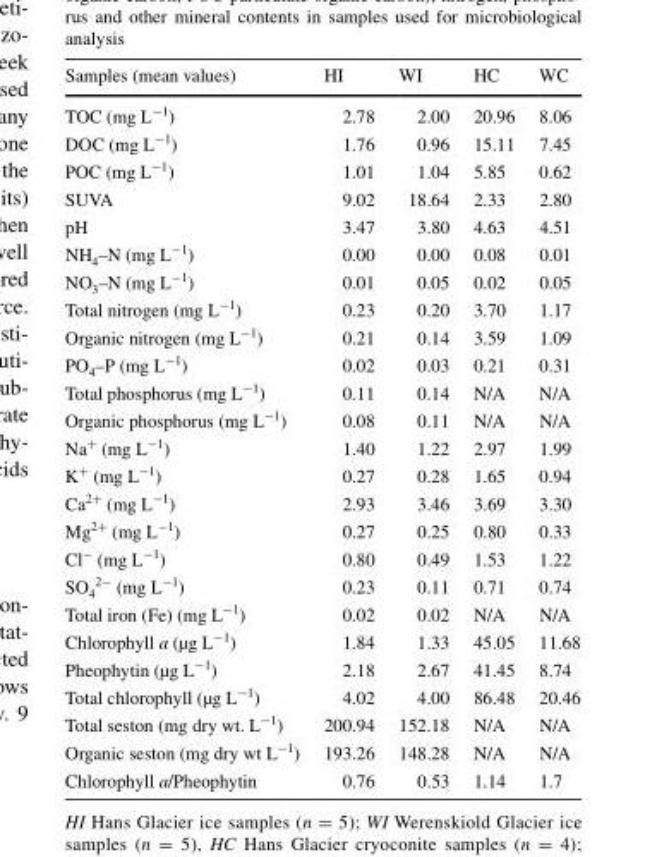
<table><thead><tr><td>Samples (mean values)</td><td>HI</td><td>WI</td><td>HC</td><td>WC</td></tr></thead><tbody><tr><td>TOC (mg L<sup>−1</sup>)</td><td>2.78</td><td>2.00</td><td>20.96</td><td>8.06</td></tr><tr><td>DOC (mg L<sup>−1</sup>)</td><td>1.76</td><td>0.96</td><td>15.11</td><td>7.45</td></tr><tr><td>POC (mg L<sup>−1</sup>)</td><td>1.01</td><td>1.04</td><td>5.85</td><td>0.62</td></tr><tr><td>SUVA</td><td>9.02</td><td>18.64</td><td>2.33</td><td>2.80</td></tr><tr><td>pH</td><td>3.47</td><td>3.80</td><td>4.63</td><td>4.51</td></tr><tr><td>NH<sub>4</sub>–N (mg L<sup>−1</sup>)</td><td>0.00</td><td>0.00</td><td>0.08</td><td>0.01</td></tr><tr><td>NO<sub>3</sub>–N (mg L<sup>−1</sup>)</td><td>0.01</td><td>0.05</td><td>0.02</td><td>0.05</td></tr><tr><td>Total nitrogen (mg L<sup>−1</sup>)</td><td>0.23</td><td>0.20</td><td>3.70</td><td>1.17</td></tr><tr><td>Organic nitrogen (mg L<sup>−1</sup>)</td><td>0.21</td><td>0.14</td><td>3.59</td><td>1.09</td></tr><tr><td>PO<sub>4</sub>–P (mg L<sup>−1</sup>)</td><td>0.02</td><td>0.03</td><td>0.21</td><td>0.31</td></tr><tr><td>Total phosphorus (mg L<sup>−1</sup>)</td><td>0.11</td><td>0.14</td><td>N/A</td><td>N/A</td></tr><tr><td>Organic phosphorus (mg L<sup>−1</sup>)</td><td>0.08</td><td>0.11</td><td>N/A</td><td>N/A</td></tr><tr><td>Na<sup>+</sup> (mg L<sup>−1</sup>)</td><td>1.40</td><td>1.22</td><td>2.97</td><td>1.99</td></tr><tr><td>K<sup>+</sup> (mg L<sup>−1</sup>)</td><td>0.27</td><td>0.28</td><td>1.65</td><td>0.94</td></tr><tr><td>Ca<sup>2+</sup> (mg L<sup>−1</sup>)</td><td>2.93</td><td>3.46</td><td>3.69</td><td>3.30</td></tr><tr><td>Mg<sup>2+</sup> (mg L<sup>−1</sup>)</td><td>0.27</td><td>0.25</td><td>0.80</td><td>0.33</td></tr><tr><td>Cl<sup>−</sup> (mg L<sup>−1</sup>)</td><td>0.80</td><td>0.49</td><td>1.53</td><td>1.22</td></tr><tr><td>SO<sub>4</sub> <sup>2−</sup> (mg L<sup>−1</sup>)</td><td>0.23</td><td>0.11</td><td>0.71</td><td>0.74</td></tr><tr><td>Total iron (Fe) (mg L<sup>−1</sup>)</td><td>0.02</td><td>0.02</td><td>N/A</td><td>N/A</td></tr><tr><td>Chlorophyll a (µg L<sup>−1</sup>)</td><td>1.84</td><td>1.33</td><td>45.05</td><td>11.68</td></tr><tr><td>Pheophytin (µg L<sup>−1</sup>)</td><td>2.18</td><td>2.67</td><td>41.45</td><td>8.74</td></tr><tr><td>Total chlorophyll (µg L<sup>−1</sup>)</td><td>4.02</td><td>4.00</td><td>86.48</td><td>20.46</td></tr><tr><td>Total seston (mg dry wt. L<sup>−1</sup>)</td><td>200.94</td><td>152.18</td><td>N/A</td><td>N/A</td></tr><tr><td>Organic seston (mg dry wt L<sup>−1</sup>)</td><td>193.26</td><td>148.28</td><td>N/A</td><td>N/A</td></tr><tr><td>Chlorophyll a/Pheophytin</td><td>0.76</td><td>0.53</td><td>1.14</td><td>1.7</td></tr></tbody></table>